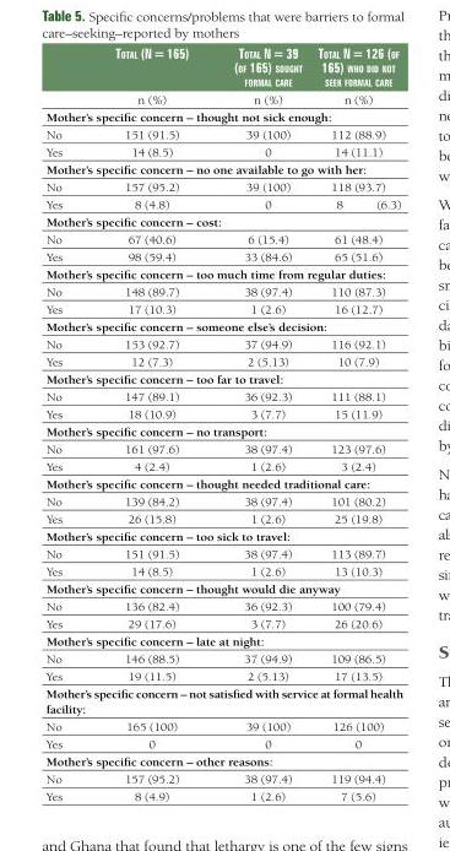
<table><thead><tr><td></td><td>total (N = 165)</td><td>total N = 39 (oF 165) Sought ForMal care</td><td colspan="2">total N = 126 (oF 165) who did Not Seek ForMal care</td></tr></thead><tbody><tr><td></td><td>n (%)</td><td>n (%)</td><td colspan="2">n (%)</td></tr><tr><td colspan="5">Mother’s specific concern – thought not sick enough:</td></tr><tr><td>No</td><td>151 (91.5)</td><td>39 (100)</td><td colspan="2">112 (88.9)</td></tr><tr><td>Yes</td><td>14 (8.5)</td><td>0</td><td colspan="2">14 (11.1)</td></tr><tr><td colspan="5">Mother’s specific concern – no one available to go with her:</td></tr><tr><td>No</td><td>157 (95.2)</td><td>39 (100)</td><td colspan="2">118 (93.7)</td></tr><tr><td>Yes</td><td>8 (4.8)</td><td>0</td><td>8</td><td>(6.3)</td></tr><tr><td colspan="5">Mother’s specific concern – cost:</td></tr><tr><td>No</td><td>67 (40.6)</td><td>6 (15.4)</td><td colspan="2">61 (48.4)</td></tr><tr><td>Yes</td><td>98 (59.4)</td><td>33 (84.6)</td><td colspan="2">65 (51.6)</td></tr><tr><td colspan="5">Mother’s specific concern – too much time from regular duties:</td></tr><tr><td>No</td><td>148 (89.7)</td><td>38 (97.4)</td><td colspan="2">110 (87.3)</td></tr><tr><td>Yes</td><td>17 (10.3)</td><td>1 (2.6)</td><td colspan="2">16 (12.7)</td></tr><tr><td colspan="5">Mother’s specific concern – someone else’s decision:</td></tr><tr><td>No</td><td>153 (92.7)</td><td>37 (94.9)</td><td colspan="2">116 (92.1)</td></tr><tr><td>Yes</td><td>12 (7.3)</td><td>2 (5.13)</td><td colspan="2">10 (7.9)</td></tr><tr><td colspan="5">Mother’s specific concern – too far to travel:</td></tr><tr><td>No</td><td>147 (89.1)</td><td>36 (92.3)</td><td colspan="2">111 (88.1)</td></tr><tr><td>Yes</td><td>18 (10.9)</td><td>3 (7.7)</td><td colspan="2">15 (11.9)</td></tr><tr><td colspan="5">Mother’s specific concern – no transport:</td></tr><tr><td>No</td><td>161 (97.6)</td><td>38 (97.4)</td><td colspan="2">123 (97.6)</td></tr><tr><td>Yes</td><td>4 (2.4)</td><td>1 (2.6)</td><td colspan="2">3 (2.4)</td></tr><tr><td colspan="5">Mother’s specific concern – thought needed traditional care:</td></tr><tr><td>No</td><td>139 (84.2)</td><td>38 (97.4)</td><td colspan="2">101 (80.2)</td></tr><tr><td>Yes</td><td>26 (15.8)</td><td>1 (2.6)</td><td colspan="2">25 (19.8)</td></tr><tr><td colspan="5">Mother’s specific concern – too sick to travel:</td></tr><tr><td>No</td><td>151 (91.5)</td><td>38 (97.4)</td><td colspan="2">113 (89.7)</td></tr><tr><td>Yes</td><td>14 (8.5)</td><td>1 (2.6)</td><td colspan="2">13 (10.3)</td></tr><tr><td colspan="5">Mother’s specific concern – thought would die anyway</td></tr><tr><td>No</td><td>136 (82.4)</td><td>36 (92.3)</td><td colspan="2">100 (79.4)</td></tr><tr><td>Yes</td><td>29 (17.6)</td><td>3 (7.7)</td><td colspan="2">26 (20.6)</td></tr><tr><td colspan="5">Mother’s specific concern – late at night:</td></tr><tr><td>No</td><td>146 (88.5)</td><td>37 (94.9)</td><td colspan="2">109 (86.5)</td></tr><tr><td>Yes</td><td>19 (11.5)</td><td>2 (5.13)</td><td colspan="2">17 (13.5)</td></tr><tr><td colspan="5">Mother’s specific concern – not satisfied with service at formal health facility:</td></tr><tr><td>No</td><td>165 (100)</td><td>39 (100)</td><td colspan="2">126 (100)</td></tr><tr><td>Yes</td><td>0</td><td>0</td><td colspan="2">0</td></tr><tr><td colspan="5">Mother’s specific concern – other reasons:</td></tr><tr><td>No</td><td>157 (95.2)</td><td>38 (97.4)</td><td colspan="2">119 (94.4)</td></tr><tr><td>Yes</td><td>8 (4.9)</td><td>1 (2.6)</td><td colspan="2">7 (5.6)</td></tr></tbody></table>